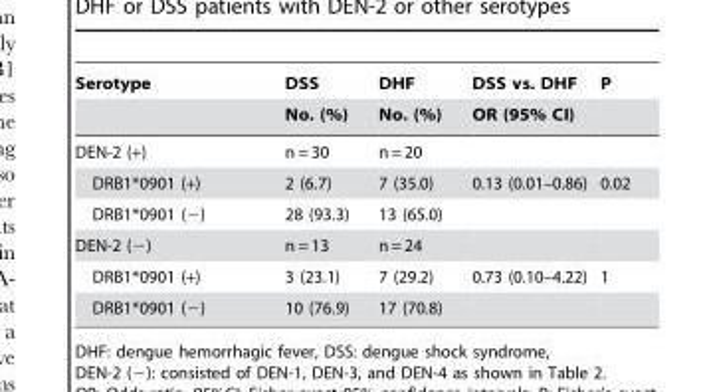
<table><thead><tr><td rowspan="2">Serotype</td><td rowspan="2">DSS No. (%)</td><td rowspan="2">DHF No. (%)</td><td rowspan="2">DSS vs. DHF OR (95% CI)</td><td rowspan="2">P</td></tr><tr></tr></thead><tbody><tr><td>DEN-2 (+)</td><td>n = 30</td><td>n = 20</td><td></td><td></td></tr><tr><td>DRB1*0901 (+)</td><td>2 (6.7)</td><td>7 (35.0)</td><td>0.13 (0.01–0.86)</td><td>0.02</td></tr><tr><td>DRB1*0901 (−)</td><td>28 (93.3)</td><td>13 (65.0)</td><td></td><td></td></tr><tr><td>DEN-2 (−)</td><td>n = 13</td><td>n = 24</td><td></td><td></td></tr><tr><td>DRB1*0901 (+)</td><td>3 (23.1)</td><td>7 (29.2)</td><td>0.73 (0.10–4.22)</td><td>1</td></tr><tr><td>DRB1*0901 (−)</td><td>10 (76.9)</td><td>17 (70.8)</td><td></td><td></td></tr></tbody></table>